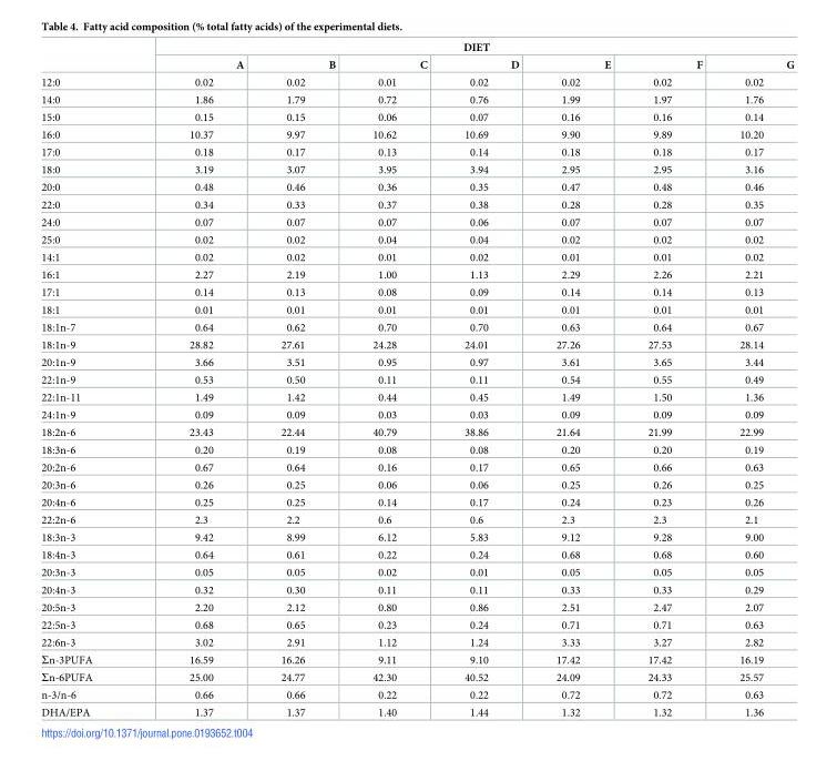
<table><thead><tr><td rowspan="2"></td><td colspan="7">DIET</td></tr><tr><td>A</td><td>B</td><td>C</td><td>D</td><td>E</td><td>F</td><td>G</td></tr></thead><tbody><tr><td>12:0</td><td>0.02</td><td>0.02</td><td>0.01</td><td>0.02</td><td>0.02</td><td>0.02</td><td>0.02</td></tr><tr><td>14:0</td><td>1.86</td><td>1.79</td><td>0.72</td><td>0.76</td><td>1.99</td><td>1.97</td><td>1.76</td></tr><tr><td>15:0</td><td>0.15</td><td>0.15</td><td>0.06</td><td>0.07</td><td>0.16</td><td>0.16</td><td>0.14</td></tr><tr><td>16:0</td><td>10.37</td><td>9.97</td><td>10.62</td><td>10.69</td><td>9.90</td><td>9.89</td><td>10.20</td></tr><tr><td>17:0</td><td>0.18</td><td>0.17</td><td>0.13</td><td>0.14</td><td>0.18</td><td>0.18</td><td>0.17</td></tr><tr><td>18:0</td><td>3.19</td><td>3.07</td><td>3.95</td><td>3.94</td><td>2.95</td><td>2.95</td><td>3.16</td></tr><tr><td>20:0</td><td>0.48</td><td>0.46</td><td>0.36</td><td>0.35</td><td>0.47</td><td>0.48</td><td>0.46</td></tr><tr><td>22:0</td><td>0.34</td><td>0.33</td><td>0.37</td><td>0.38</td><td>0.28</td><td>0.28</td><td>0.35</td></tr><tr><td>24:0</td><td>0.07</td><td>0.07</td><td>0.07</td><td>0.06</td><td>0.07</td><td>0.07</td><td>0.07</td></tr><tr><td>25:0</td><td>0.02</td><td>0.02</td><td>0.04</td><td>0.04</td><td>0.02</td><td>0.02</td><td>0.02</td></tr><tr><td>14:1</td><td>0.02</td><td>0.02</td><td>0.01</td><td>0.02</td><td>0.01</td><td>0.01</td><td>0.02</td></tr><tr><td>16:1</td><td>2.27</td><td>2.19</td><td>1.00</td><td>1.13</td><td>2.29</td><td>2.26</td><td>2.21</td></tr><tr><td>17:1</td><td>0.14</td><td>0.13</td><td>0.08</td><td>0.09</td><td>0.14</td><td>0.14</td><td>0.13</td></tr><tr><td>18:1</td><td>0.01</td><td>0.01</td><td>0.01</td><td>0.01</td><td>0.01</td><td>0.01</td><td>0.01</td></tr><tr><td>18:1n-7</td><td>0.64</td><td>0.62</td><td>0.70</td><td>0.70</td><td>0.63</td><td>0.64</td><td>0.67</td></tr><tr><td>18:1n-9</td><td>28.82</td><td>27.61</td><td>24.28</td><td>24.01</td><td>27.26</td><td>27.53</td><td>28.14</td></tr><tr><td>20:1n-9</td><td>3.66</td><td>3.51</td><td>0.95</td><td>0.97</td><td>3.61</td><td>3.65</td><td>3.44</td></tr><tr><td>22:1n-9</td><td>0.53</td><td>0.50</td><td>0.11</td><td>0.11</td><td>0.54</td><td>0.55</td><td>0.49</td></tr><tr><td>22:1n-11</td><td>1.49</td><td>1.42</td><td>0.44</td><td>0.45</td><td>1.49</td><td>1.50</td><td>1.36</td></tr><tr><td>24:1n-9</td><td>0.09</td><td>0.09</td><td>0.03</td><td>0.03</td><td>0.09</td><td>0.09</td><td>0.09</td></tr><tr><td>18:2n-6</td><td>23.43</td><td>22.44</td><td>40.79</td><td>38.86</td><td>21.64</td><td>21.99</td><td>22.99</td></tr><tr><td>18:3n-6</td><td>0.20</td><td>0.19</td><td>0.08</td><td>0.08</td><td>0.20</td><td>0.20</td><td>0.19</td></tr><tr><td>20:2n-6</td><td>0.67</td><td>0.64</td><td>0.16</td><td>0.17</td><td>0.65</td><td>0.66</td><td>0.63</td></tr><tr><td>20:3n-6</td><td>0.26</td><td>0.25</td><td>0.06</td><td>0.06</td><td>0.25</td><td>0.26</td><td>0.25</td></tr><tr><td>20:4n-6</td><td>0.25</td><td>0.25</td><td>0.14</td><td>0.17</td><td>0.24</td><td>0.23</td><td>0.26</td></tr><tr><td>22:2n-6</td><td>2.3</td><td>2.2</td><td>0.6</td><td>0.6</td><td>2.3</td><td>2.3</td><td>2.1</td></tr><tr><td>18:3n-3</td><td>9.42</td><td>8.99</td><td>6.12</td><td>5.83</td><td>9.12</td><td>9.28</td><td>9.00</td></tr><tr><td>18:4n-3</td><td>0.64</td><td>0.61</td><td>0.22</td><td>0.24</td><td>0.68</td><td>0.68</td><td>0.60</td></tr><tr><td>20:3n-3</td><td>0.05</td><td>0.05</td><td>0.02</td><td>0.01</td><td>0.05</td><td>0.05</td><td>0.05</td></tr><tr><td>20:4n-3</td><td>0.32</td><td>0.30</td><td>0.11</td><td>0.11</td><td>0.33</td><td>0.33</td><td>0.29</td></tr><tr><td>20:5n-3</td><td>2.20</td><td>2.12</td><td>0.80</td><td>0.86</td><td>2.51</td><td>2.47</td><td>2.07</td></tr><tr><td>22:5n-3</td><td>0.68</td><td>0.65</td><td>0.23</td><td>0.24</td><td>0.71</td><td>0.71</td><td>0.63</td></tr><tr><td>22:6n-3</td><td>3.02</td><td>2.91</td><td>1.12</td><td>1.24</td><td>3.33</td><td>3.27</td><td>2.82</td></tr><tr><td>Σn-3PUFA</td><td>16.59</td><td>16.26</td><td>9.11</td><td>9.10</td><td>17.42</td><td>17.42</td><td>16.19</td></tr><tr><td>Σn-6PUFA</td><td>25.00</td><td>24.77</td><td>42.30</td><td>40.52</td><td>24.09</td><td>24.33</td><td>25.57</td></tr><tr><td>n-3/n-6</td><td>0.66</td><td>0.66</td><td>0.22</td><td>0.22</td><td>0.72</td><td>0.72</td><td>0.63</td></tr><tr><td>DHA/EPA</td><td>1.37</td><td>1.37</td><td>1.40</td><td>1.44</td><td>1.32</td><td>1.32</td><td>1.36</td></tr></tbody></table>